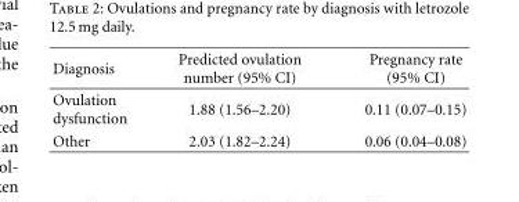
<table><thead><tr><td>Diagnosis</td><td>Predicted ovulation number (95% CI)</td><td>Pregnancy rate (95% CI)</td></tr></thead><tbody><tr><td>Ovulation dysfunction</td><td>1.88 (1.56–2.20)</td><td>0.11 (0.07–0.15)</td></tr><tr><td>Other</td><td>2.03 (1.82–2.24)</td><td>0.06 (0.04–0.08)</td></tr></tbody></table>